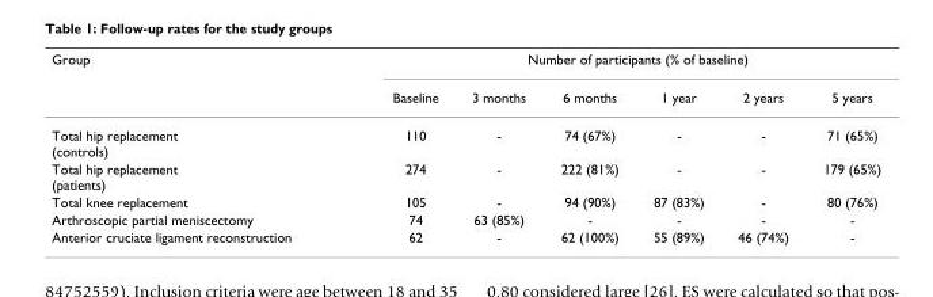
<table><thead><tr><td rowspan="2">Group</td><td colspan="6">Number of participants (% of baseline)</td></tr><tr><td>Baseline</td><td>3 months</td><td>6 months</td><td>1 year</td><td>2 years</td><td>5 years</td></tr></thead><tbody><tr><td>Total hip replacement (controls)</td><td>110</td><td>-</td><td>74 (67%)</td><td>-</td><td>-</td><td>71 (65%)</td></tr><tr><td>Total hip replacement (patients)</td><td>274</td><td>-</td><td>222 (81%)</td><td>-</td><td>-</td><td>179 (65%)</td></tr><tr><td>Total knee replacement</td><td>105</td><td>-</td><td>94 (90%)</td><td>87 (83%)</td><td>-</td><td>80 (76%)</td></tr><tr><td>Arthroscopic partial meniscectomy</td><td>74</td><td>63 (85%)</td><td>-</td><td>-</td><td>-</td><td>-</td></tr><tr><td>Anterior cruciate ligament reconstruction</td><td>62</td><td>-</td><td>62 (100%)</td><td>55 (89%)</td><td>46 (74%)</td><td>-</td></tr></tbody></table>